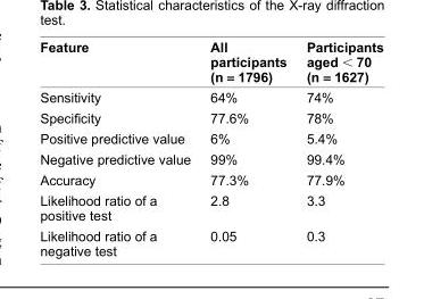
<table><thead><tr><td>Feature</td><td>All participants (n = 1796)</td><td>participants aged &lt; 70 (n = 1627)</td></tr></thead><tbody><tr><td>sensitivity</td><td>64%</td><td>74%</td></tr><tr><td>Specificity</td><td>77.6%</td><td>78%</td></tr><tr><td>Positive predictive value</td><td>6%</td><td>5.4%</td></tr><tr><td>negative predictive value</td><td>99%</td><td>99.4%</td></tr><tr><td>Accuracy</td><td>77.3%</td><td>77.9%</td></tr><tr><td>Likelihood ratio of a positive test</td><td>2.8</td><td>3.3</td></tr><tr><td>Likelihood ratio of a negative test</td><td>0.05</td><td>0.3</td></tr></tbody></table>